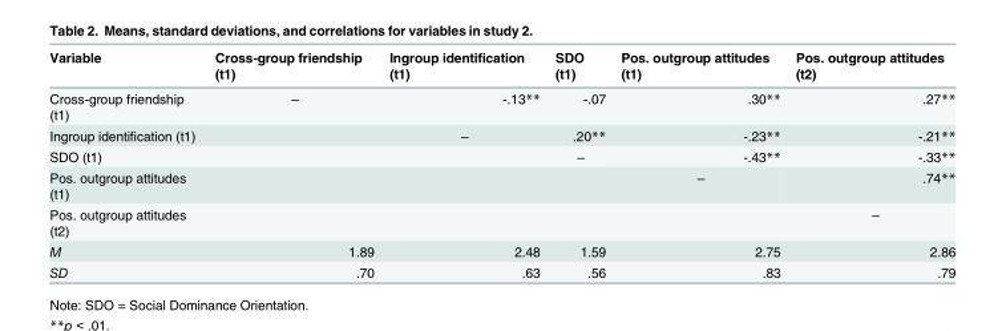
<table><thead><tr><td>Variable</td><td>Cross-group friendship (t1)</td><td>Ingroup identification (t1)</td><td>SDO (t1)</td><td>Pos. outgroup attitudes (t1)</td><td>Pos. outgroup attitudes (t2)</td></tr></thead><tbody><tr><td>Cross-group friendship (t1)</td><td>–</td><td>-.13**</td><td>-.07</td><td>.30**</td><td>.27**</td></tr><tr><td>Ingroup identification (t1)</td><td></td><td>–</td><td>.20**</td><td>-.23**</td><td>-.21**</td></tr><tr><td>SDO (t1)</td><td></td><td></td><td>–</td><td>-.43**</td><td>-.33**</td></tr><tr><td>Pos. outgroup attitudes (t1)</td><td></td><td></td><td></td><td>–</td><td>.74**</td></tr><tr><td>Pos. outgroup attitudes (t2)</td><td></td><td></td><td></td><td></td><td>–</td></tr><tr><td>M</td><td>1.89</td><td>2.48</td><td>1.59</td><td>2.75</td><td>2.86</td></tr><tr><td>SD</td><td>.70</td><td>.63</td><td>.56</td><td>.83</td><td>.79</td></tr></tbody></table>